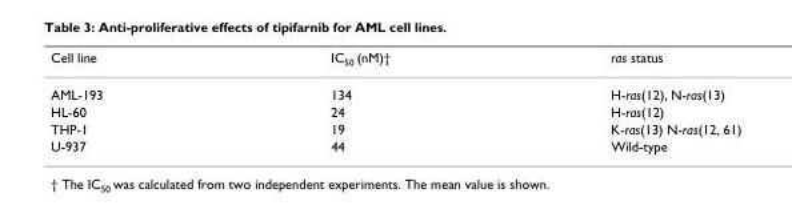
<table><thead><tr><td>Cell line</td><td>IC50 (nM)†</td><td>ras status</td></tr></thead><tbody><tr><td>AML-193</td><td>134</td><td>H-ras(12), N-ras(13)</td></tr><tr><td>HL-60</td><td>24</td><td>H-ras(12)</td></tr><tr><td>THP-1</td><td>19</td><td>K-ras(13) N-ras(12, 61)</td></tr><tr><td>U-937</td><td>44</td><td>Wild-type</td></tr></tbody></table>